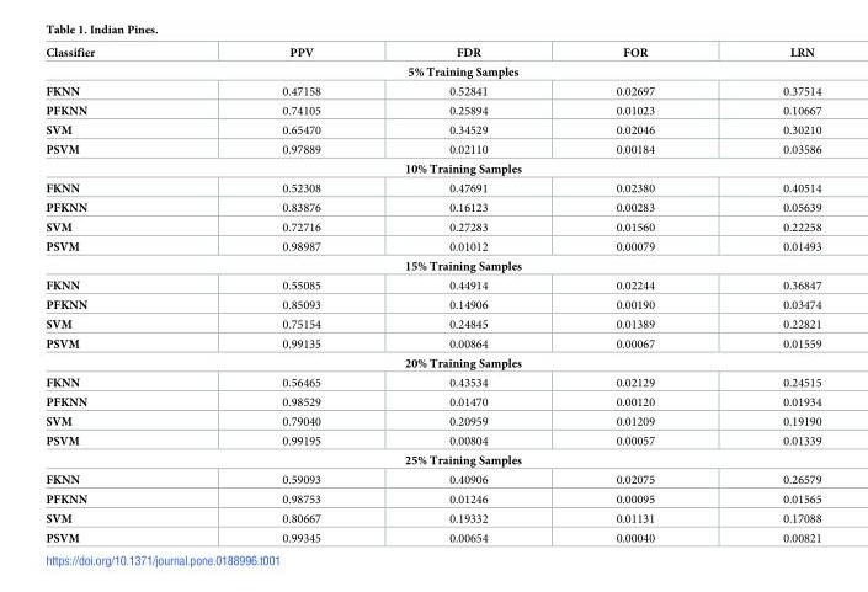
<table><thead><tr><td>Classifier</td><td>PPV</td><td>FDR</td><td>FOR</td><td>LRN</td></tr></thead><tbody><tr><td colspan="5">5% Training Samples</td></tr><tr><td>FKNN</td><td>0.47158</td><td>0.52841</td><td>0.02697</td><td>0.37514</td></tr><tr><td>PFKNN</td><td>0.74105</td><td>0.25894</td><td>0.01023</td><td>0.10667</td></tr><tr><td>SVM</td><td>0.65470</td><td>0.34529</td><td>0.02046</td><td>0.30210</td></tr><tr><td>PSVM</td><td>0.97889</td><td>0.02110</td><td>0.00184</td><td>0.03586</td></tr><tr><td colspan="5">10% Training Samples</td></tr><tr><td>FKNN</td><td>0.52308</td><td>0.47691</td><td>0.02380</td><td>0.40514</td></tr><tr><td>PFKNN</td><td>0.83876</td><td>0.16123</td><td>0.00283</td><td>0.05639</td></tr><tr><td>SVM</td><td>0.72716</td><td>0.27283</td><td>0.01560</td><td>0.22258</td></tr><tr><td>PSVM</td><td>0.98987</td><td>0.01012</td><td>0.00079</td><td>0.01493</td></tr><tr><td colspan="5">15% Training Samples</td></tr><tr><td>FKNN</td><td>0.55085</td><td>0.44914</td><td>0.02244</td><td>0.36847</td></tr><tr><td>PFKNN</td><td>0.85093</td><td>0.14906</td><td>0.00190</td><td>0.03474</td></tr><tr><td>SVM</td><td>0.75154</td><td>0.24845</td><td>0.01389</td><td>0.22821</td></tr><tr><td>PSVM</td><td>0.99135</td><td>0.00864</td><td>0.00067</td><td>0.01559</td></tr><tr><td colspan="5">20% Training Samples</td></tr><tr><td>FKNN</td><td>0.56465</td><td>0.43534</td><td>0.02129</td><td>0.24515</td></tr><tr><td>PFKNN</td><td>0.98529</td><td>0.01470</td><td>0.00120</td><td>0.01934</td></tr><tr><td>SVM</td><td>0.79040</td><td>0.20959</td><td>0.01209</td><td>0.19190</td></tr><tr><td>PSVM</td><td>0.99195</td><td>0.00804</td><td>0.00057</td><td>0.01339</td></tr><tr><td colspan="5">25% Training Samples</td></tr><tr><td>FKNN</td><td>0.59093</td><td>0.40906</td><td>0.02075</td><td>0.26579</td></tr><tr><td>PFKNN</td><td>0.98753</td><td>0.01246</td><td>0.00095</td><td>0.01565</td></tr><tr><td>SVM</td><td>0.80667</td><td>0.19332</td><td>0.01131</td><td>0.17088</td></tr><tr><td>PSVM</td><td>0.99345</td><td>0.00654</td><td>0.00040</td><td>0.00821</td></tr></tbody></table>